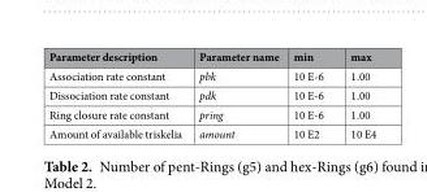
<table><thead><tr><td>Parameter description</td><td>Parameter name</td><td>min</td><td>max</td></tr></thead><tbody><tr><td>Association rate constant</td><td>pbk</td><td>10 E-6</td><td>1.00</td></tr><tr><td>Dissociation rate constant</td><td>pdk</td><td>10 E-6</td><td>1.00</td></tr><tr><td>Ring closure rate constant</td><td>pring</td><td>10 E-6</td><td>1.00</td></tr><tr><td>Amount of available triskelia</td><td>amount</td><td>10 E2</td><td>10 E4</td></tr></tbody></table>